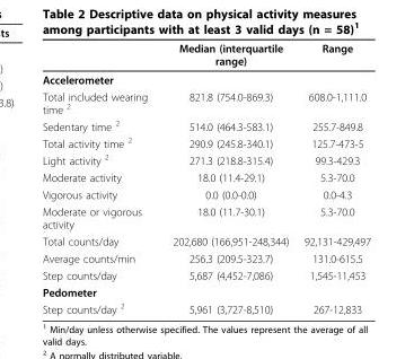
<table><thead><tr><td></td><td>Median (interquartile range)</td><td>Range</td></tr></thead><tbody><tr><td colspan="3">Accelerometer</td></tr><tr><td>Total included wearing time <sup>2</sup></td><td>821.8 (754.0-869.3)</td><td>608.0-1,111.0</td></tr><tr><td>Sedentary time <sup>2</sup></td><td>514.0 (464.3-583.1)</td><td>255.7-849.8</td></tr><tr><td>Total activity time <sup>2</sup></td><td>290.9 (245.8-340.1)</td><td>125.7-473-5</td></tr><tr><td>Light activity <sup>2</sup></td><td>271.3 (218.8-315.4)</td><td>99.3-429.3</td></tr><tr><td>Moderate activity</td><td>18.0 (11.4-29.1)</td><td>5.3-70.0</td></tr><tr><td>Vigorous activity</td><td>0.0 (0.0-0.0)</td><td>0.0-4.3</td></tr><tr><td>Moderate or vigorous activity</td><td>18.0 (11.7-30.1)</td><td>5.3-70.0</td></tr><tr><td>Total counts/day</td><td>202,680 (166,951-248,344)</td><td>92,131-429,497</td></tr><tr><td>Average counts/min</td><td>256.3 (209.5-323.7)</td><td>131.0-615.5</td></tr><tr><td>Step counts/day</td><td>5,687 (4,452-7,086)</td><td>1,545-11,453</td></tr><tr><td colspan="3">Pedometer</td></tr><tr><td>Step counts/day <sup>2</sup></td><td>5,961 (3,727-8,510)</td><td>267-12,833</td></tr></tbody></table>